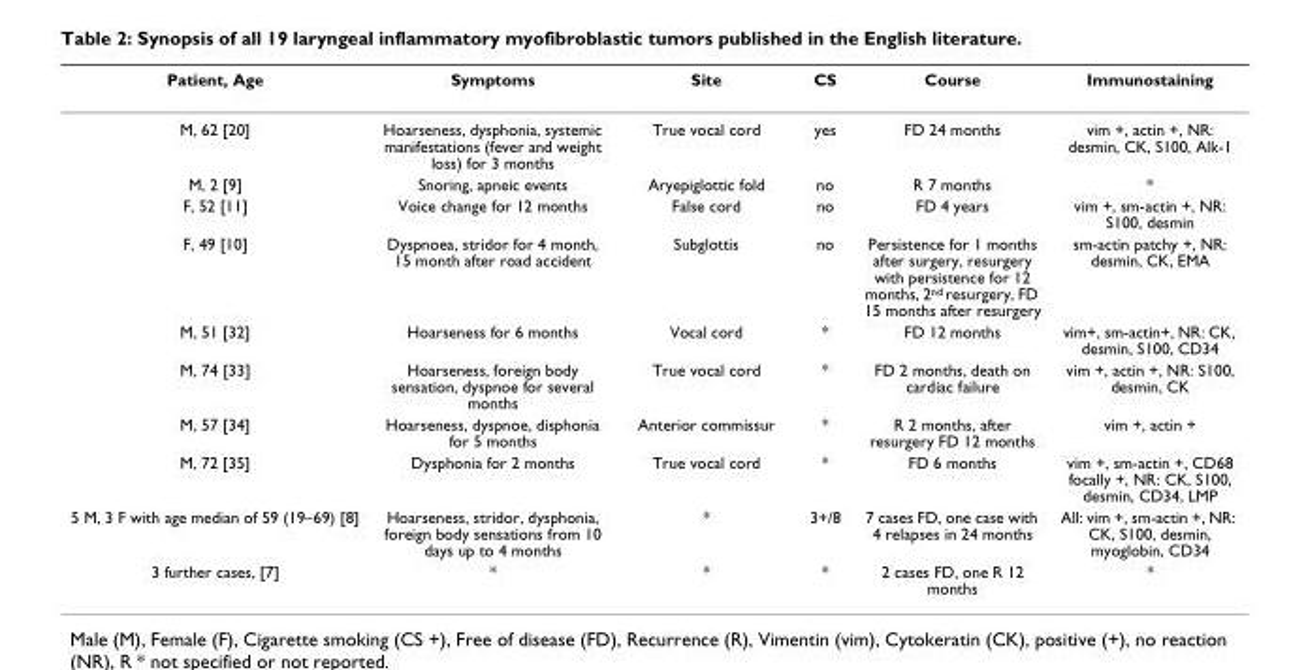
<table><thead><tr><td>Patient, Age</td><td>Symptoms</td><td>Site</td><td>CS</td><td>Course</td><td>Immunostaining</td></tr></thead><tbody><tr><td>M, 62 [20]</td><td>Hoarseness, dysphonia, systemic manifestations (fever and weight loss) for 3 months</td><td>True vocal cord</td><td>yes</td><td>FD 24 months</td><td>vim +, actin +, NR: desmin, CK, S100, Alk-1</td></tr><tr><td>M, 2 [9]</td><td>Snoring, apneic events</td><td>Aryepiglottic fold</td><td>no</td><td>R 7 months</td><td>*</td></tr><tr><td>F, 52 [11]</td><td>Voice change for 12 months</td><td>False cord</td><td>no</td><td>FD 4 years</td><td>vim +, sm-actin +, NR: S100, desmin</td></tr><tr><td>F, 49 [10]</td><td>Dyspnoea, stridor for 4 month, 15 month after road accident</td><td>Subglottis</td><td>no</td><td>Persistence for 1 months after surgery, resurgery with persistence for 12 months, 2<sup>nd</sup> resurgery, FD 15 months after resurgery</td><td>sm-actin patchy +, NR: desmin, CK, EMA</td></tr><tr><td>M, 51 [32]</td><td>Hoarseness for 6 months</td><td>Vocal cord</td><td>*</td><td>FD 12 months</td><td>vim+, sm-actin+, NR: CK, desmin, S100, CD34</td></tr><tr><td>M, 74 [33]</td><td>Hoarseness, foreign body sensation, dyspnoe for several months</td><td>True vocal cord</td><td>*</td><td>FD 2 months, death on cardiac failure</td><td>vim +, actin +, NR: S100, desmin, CK</td></tr><tr><td>M, 57 [34]</td><td>Hoarseness, dyspnoe, disphonia for 5 months</td><td>Anterior commissur</td><td>*</td><td>R 2 months, after resurgery FD 12 months</td><td>vim +, actin +</td></tr><tr><td>M, 72 [35]</td><td>Dysphonia for 2 months</td><td>True vocal cord</td><td>*</td><td>FD 6 months</td><td>vim +, sm-actin +, CD68 focally +, NR: CK, S100, desmin, CD34, LMP</td></tr><tr><td>5 M, 3 F with age median of 59 (19–69) [8]</td><td>Hoarseness, stridor, dysphonia, foreign body sensations from 10 days up to 4 months</td><td>*</td><td>3+/8</td><td>7 cases FD, one case with 4 relapses in 24 months</td><td>All: vim +, sm-actin +, NR: CK, S100, desmin, myoglobin, CD34</td></tr><tr><td>3 further cases, [7]</td><td>*</td><td>*</td><td>*</td><td>2 cases FD, one R 12 months</td><td>*</td></tr></tbody></table>